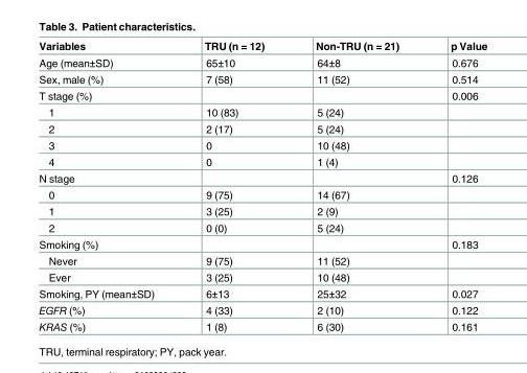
<table><thead><tr><td>Variables</td><td>TRU (n = 12)</td><td>Non-TRU (n = 21)</td><td>p Value</td></tr></thead><tbody><tr><td>Age (mean±SD)</td><td>65±10</td><td>64±8</td><td>0.676</td></tr><tr><td>Sex, male (%)</td><td>7 (58)</td><td>11 (52)</td><td>0.514</td></tr><tr><td>T stage (%)</td><td></td><td></td><td>0.006</td></tr><tr><td>1</td><td>10 (83)</td><td>5 (24)</td><td></td></tr><tr><td>2</td><td>2 (17)</td><td>5 (24)</td><td></td></tr><tr><td>3</td><td>0</td><td>10 (48)</td><td></td></tr><tr><td>4</td><td>0</td><td>1 (4)</td><td></td></tr><tr><td>N stage</td><td></td><td></td><td>0.126</td></tr><tr><td>0</td><td>9 (75)</td><td>14 (67)</td><td></td></tr><tr><td>1</td><td>3 (25)</td><td>2 (9)</td><td></td></tr><tr><td>2</td><td>0 (0)</td><td>5 (24)</td><td></td></tr><tr><td>Smoking (%)</td><td></td><td></td><td>0.183</td></tr><tr><td>Never</td><td>9 (75)</td><td>11 (52)</td><td></td></tr><tr><td>Ever</td><td>3 (25)</td><td>10 (48)</td><td></td></tr><tr><td>Smoking, PY (mean±SD)</td><td>6±13</td><td>25±32</td><td>0.027</td></tr><tr><td>EGFR (%)</td><td>4 (33)</td><td>2 (10)</td><td>0.122</td></tr><tr><td>KRAS (%)</td><td>1 (8)</td><td>6 (30)</td><td>0.161</td></tr></tbody></table>